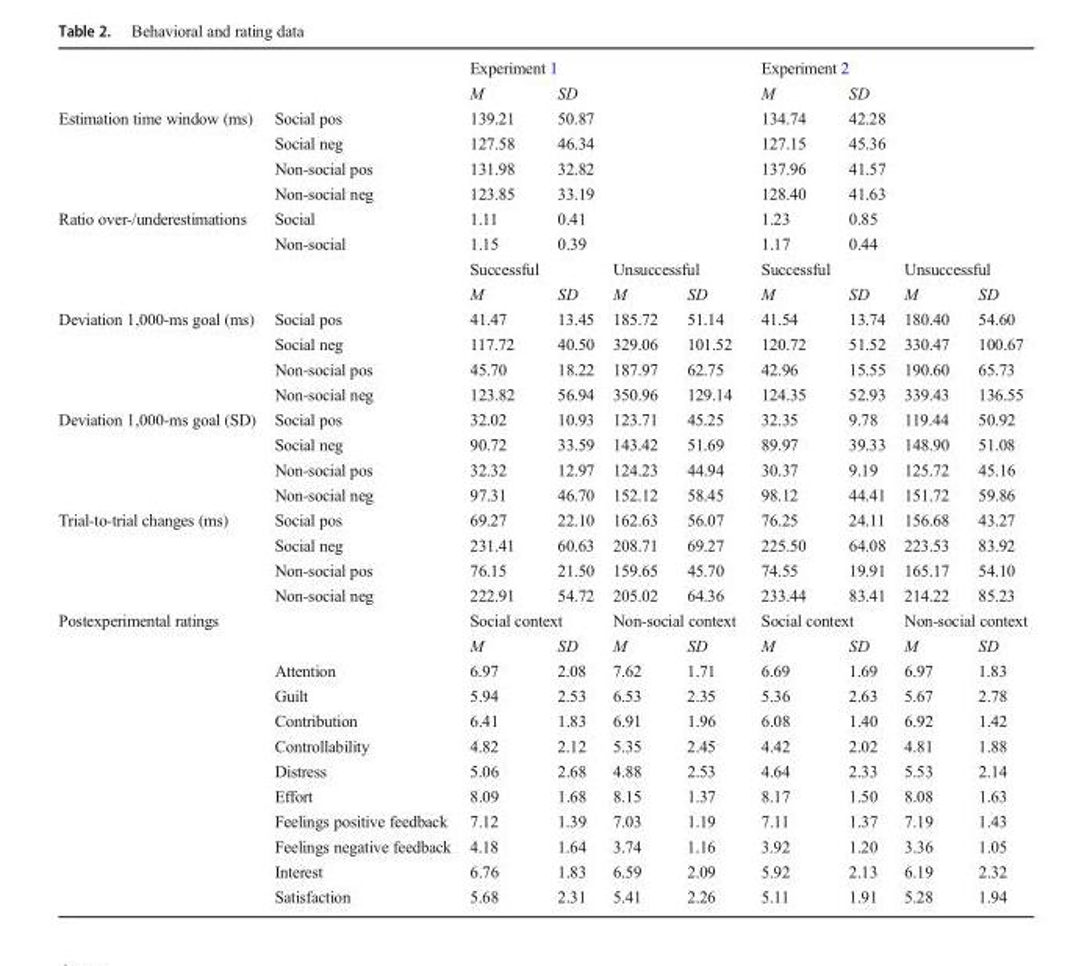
<table><thead><tr><td rowspan="2"></td><td rowspan="2"></td><td colspan="4">Experiment 1</td><td colspan="4">Experiment 2</td></tr><tr><td>M</td><td>SD</td><td></td><td></td><td>M</td><td>SD</td><td></td><td></td></tr></thead><tbody><tr><td rowspan="4">Estimation time window (ms)</td><td>Social pos</td><td>139.21</td><td>50.87</td><td></td><td></td><td>134.74</td><td>42.28</td><td></td><td></td></tr><tr><td>Social neg</td><td>127.58</td><td>46.34</td><td></td><td></td><td>127.15</td><td>45.36</td><td></td><td></td></tr><tr><td>Non-social pos</td><td>131.98</td><td>32.82</td><td></td><td></td><td>137.96</td><td>41.57</td><td></td><td></td></tr><tr><td>Non-social neg</td><td>123.85</td><td>33.19</td><td></td><td></td><td>128.40</td><td>41.63</td><td></td><td></td></tr><tr><td rowspan="4">Ratio over-/underestimations</td><td>Social</td><td>1.11</td><td>0.41</td><td></td><td></td><td>1.23</td><td>0.85</td><td></td><td></td></tr><tr><td>Non-social</td><td>1.15</td><td>0.39</td><td></td><td></td><td>1.17</td><td>0.44</td><td></td><td></td></tr><tr><td></td><td>Successful</td><td></td><td colspan="2">Unsuccessful</td><td>Successful</td><td></td><td colspan="2">Unsuccessful</td></tr><tr><td></td><td>M</td><td>SD</td><td>M</td><td>SD</td><td>M</td><td>SD</td><td>M</td><td>SD</td></tr><tr><td rowspan="4">Deviation 1,000-ms goal (ms)</td><td>Social pos</td><td>41.47</td><td>13.45</td><td>185.72</td><td>51.14</td><td>41.54</td><td>13.74</td><td>180.40</td><td>54.60</td></tr><tr><td>Social neg</td><td>117.72</td><td>40.50</td><td>329.06</td><td>101.52</td><td>120.72</td><td>51.52</td><td>330.47</td><td>100.67</td></tr><tr><td>Non-social pos</td><td>45.70</td><td>18.22</td><td>187.97</td><td>62.75</td><td>42.96</td><td>15.55</td><td>190.60</td><td>65.73</td></tr><tr><td>Non-social neg</td><td>123.82</td><td>56.94</td><td>350.96</td><td>129.14</td><td>124.35</td><td>52.93</td><td>339.43</td><td>136.55</td></tr><tr><td rowspan="4">Deviation 1,000-ms goal (SD)</td><td>Social pos</td><td>32.02</td><td>10.93</td><td>123.71</td><td>45.25</td><td>32.35</td><td>9.78</td><td>119.44</td><td>50.92</td></tr><tr><td>Social neg</td><td>90.72</td><td>33.59</td><td>143.42</td><td>51.69</td><td>89.97</td><td>39.33</td><td>148.90</td><td>51.08</td></tr><tr><td>Non-social pos</td><td>32.32</td><td>12.97</td><td>124.23</td><td>44.94</td><td>30.37</td><td>9.19</td><td>125.72</td><td>45.16</td></tr><tr><td>Non-social neg</td><td>97.31</td><td>46.70</td><td>152.12</td><td>58.45</td><td>98.12</td><td>44.41</td><td>151.72</td><td>59.86</td></tr><tr><td rowspan="4">Trial-to-trial changes (ms)</td><td>Social pos</td><td>69.27</td><td>22.10</td><td>162.63</td><td>56.07</td><td>76.25</td><td>24.11</td><td>156.68</td><td>43.27</td></tr><tr><td>Social neg</td><td>231.41</td><td>60.63</td><td>208.71</td><td>69.27</td><td>225.50</td><td>64.08</td><td>223.53</td><td>83.92</td></tr><tr><td>Non-social pos</td><td>76.15</td><td>21.50</td><td>159.65</td><td>45.70</td><td>74.55</td><td>19.91</td><td>165.17</td><td>54.10</td></tr><tr><td>Non-social neg</td><td>222.91</td><td>54.72</td><td>205.02</td><td>64.36</td><td>233.44</td><td>83.41</td><td>214.22</td><td>85.23</td></tr><tr><td rowspan="12">Postexperimental ratings</td><td></td><td colspan="2">Social context</td><td colspan="2">Non-social context</td><td colspan="2">Social context</td><td colspan="2">Non-social context</td></tr><tr><td></td><td>M</td><td>SD</td><td>M</td><td>SD</td><td>M</td><td>SD</td><td>M</td><td>SD</td></tr><tr><td>Attention</td><td>6.97</td><td>2.08</td><td>7.62</td><td>1.71</td><td>6.69</td><td>1.69</td><td>6.97</td><td>1.83</td></tr><tr><td>Guilt</td><td>5.94</td><td>2.53</td><td>6.53</td><td>2.35</td><td>5.36</td><td>2.63</td><td>5.67</td><td>2.78</td></tr><tr><td>Contribution</td><td>6.41</td><td>1.83</td><td>6.91</td><td>1.96</td><td>6.08</td><td>1.40</td><td>6.92</td><td>1.42</td></tr><tr><td>Controllability</td><td>4.82</td><td>2.12</td><td>5.35</td><td>2.45</td><td>4.42</td><td>2.02</td><td>4.81</td><td>1.88</td></tr><tr><td>Distress</td><td>5.06</td><td>2.68</td><td>4.88</td><td>2.53</td><td>4.64</td><td>2.33</td><td>5.53</td><td>2.14</td></tr><tr><td>Effort</td><td>8.09</td><td>1.68</td><td>8.15</td><td>1.37</td><td>8.17</td><td>1.50</td><td>8.08</td><td>1.63</td></tr><tr><td>Feelings positive feedback</td><td>7.12</td><td>1.39</td><td>7.03</td><td>1.19</td><td>7.11</td><td>1.37</td><td>7.19</td><td>1.43</td></tr><tr><td>Feelings negative feedback</td><td>4.18</td><td>1.64</td><td>3.74</td><td>1.16</td><td>3.92</td><td>1.20</td><td>3.36</td><td>1.05</td></tr><tr><td>Interest</td><td>6.76</td><td>1.83</td><td>6.59</td><td>2.09</td><td>5.92</td><td>2.13</td><td>6.19</td><td>2.32</td></tr><tr><td>Satisfaction</td><td>5.68</td><td>2.31</td><td>5.41</td><td>2.26</td><td>5.11</td><td>1.91</td><td>5.28</td><td>1.94</td></tr></tbody></table>